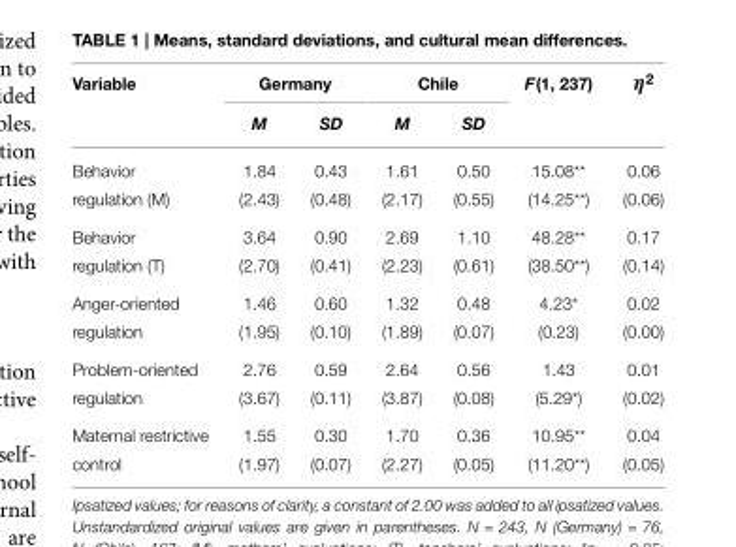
<table><thead><tr><td rowspan="2">Variable</td><td colspan="2">Germany</td><td colspan="2">Chile</td><td rowspan="2">F(1, 237)</td><td rowspan="2">η<sup>2</sup></td></tr><tr><td>M</td><td>SD</td><td>M</td><td>SD</td></tr></thead><tbody><tr><td>Behavior</td><td>1.84</td><td>0.43</td><td>1.61</td><td>0.50</td><td>15.08**</td><td>0.06</td></tr><tr><td>regulation (M)</td><td>(2.43)</td><td>(0.48)</td><td>(2.17)</td><td>(0.55)</td><td>(14.25**)</td><td>(0.06)</td></tr><tr><td>Behavior</td><td>3.64</td><td>0.90</td><td>2.69</td><td>1.10</td><td>48.28**</td><td>0.17</td></tr><tr><td>regulation (T)</td><td>(2.70)</td><td>(0.41)</td><td>(2.23)</td><td>(0.61)</td><td>(38.50**)</td><td>(0.14)</td></tr><tr><td>Anger-oriented</td><td>1.46</td><td>0.60</td><td>1.32</td><td>0.48</td><td>4.23*</td><td>0.02</td></tr><tr><td>regulation</td><td>(1.95)</td><td>(0.10)</td><td>(1.89)</td><td>(0.07)</td><td>(0.23)</td><td>(0.00)</td></tr><tr><td>Problem-oriented</td><td>2.76</td><td>0.59</td><td>2.64</td><td>0.56</td><td>1.43</td><td>0.01</td></tr><tr><td>regulation</td><td>(3.67)</td><td>(0.11)</td><td>(3.87)</td><td>(0.08)</td><td>(5.29*)</td><td>(0.02)</td></tr><tr><td>Maternal restrictive</td><td>1.55</td><td>0.30</td><td>1.70</td><td>0.36</td><td>10.95**</td><td>0.04</td></tr><tr><td>control</td><td>(1.97)</td><td>(0.07)</td><td>(2.27)</td><td>(0.05)</td><td>(11.20**)</td><td>(0.05)</td></tr></tbody></table>